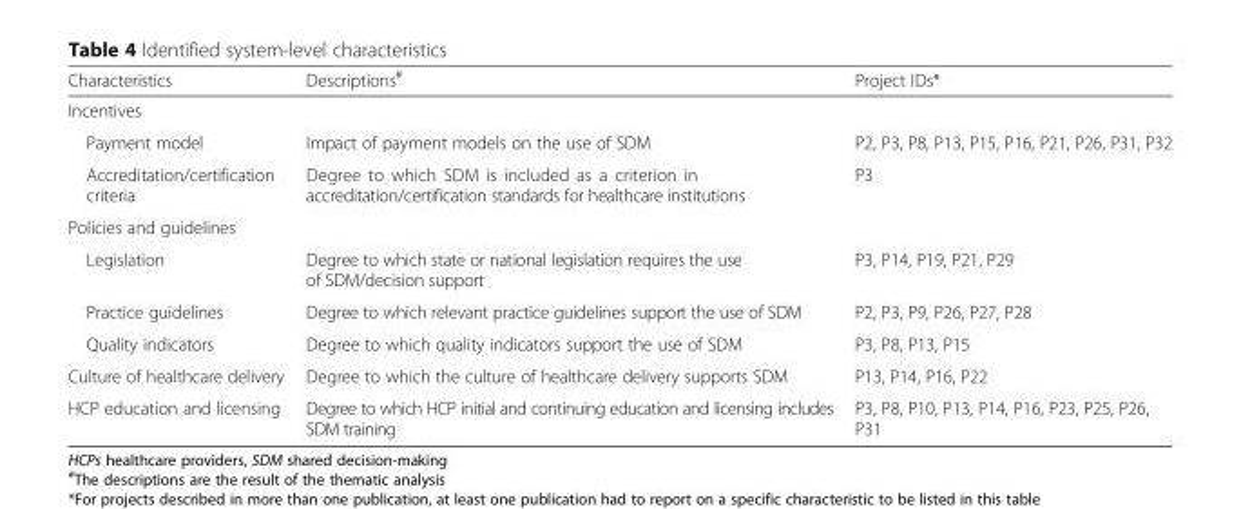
<table><thead><tr><td>Characteristics</td><td>Descriptions<sup>#</sup></td><td>Project IDs*</td></tr></thead><tbody><tr><td colspan="3">Incentives</td></tr><tr><td>Payment model</td><td>Impact of payment models on the use of SDM</td><td>P2, P3, P8, P13, P15, P16, P21, P26, P31, P32</td></tr><tr><td>Accreditation/certification criteria</td><td>Degree to which SDM is included as a criterion in accreditation/certification standards for healthcare institutions</td><td>P3</td></tr><tr><td colspan="3">Policies and guidelines</td></tr><tr><td>Legislation</td><td>Degree to which state or national legislation requires the use of SDM/decision support</td><td>P3, P14, P19, P21, P29</td></tr><tr><td>Practice guidelines</td><td>Degree to which relevant practice guidelines support the use of SDM</td><td>P2, P3, P9, P26, P27, P28</td></tr><tr><td>Quality indicators</td><td>Degree to which quality indicators support the use of SDM</td><td>P3, P8, P13, P15</td></tr><tr><td>Culture of healthcare delivery</td><td>Degree to which the culture of healthcare delivery supports SDM</td><td>P13, P14, P16, P22</td></tr><tr><td>HCP education and licensing</td><td>Degree to which HCP initial and continuing education and licensing includes SDM training</td><td>P3, P8, P10, P13, P14, P16, P23, P25, P26, P31</td></tr></tbody></table>